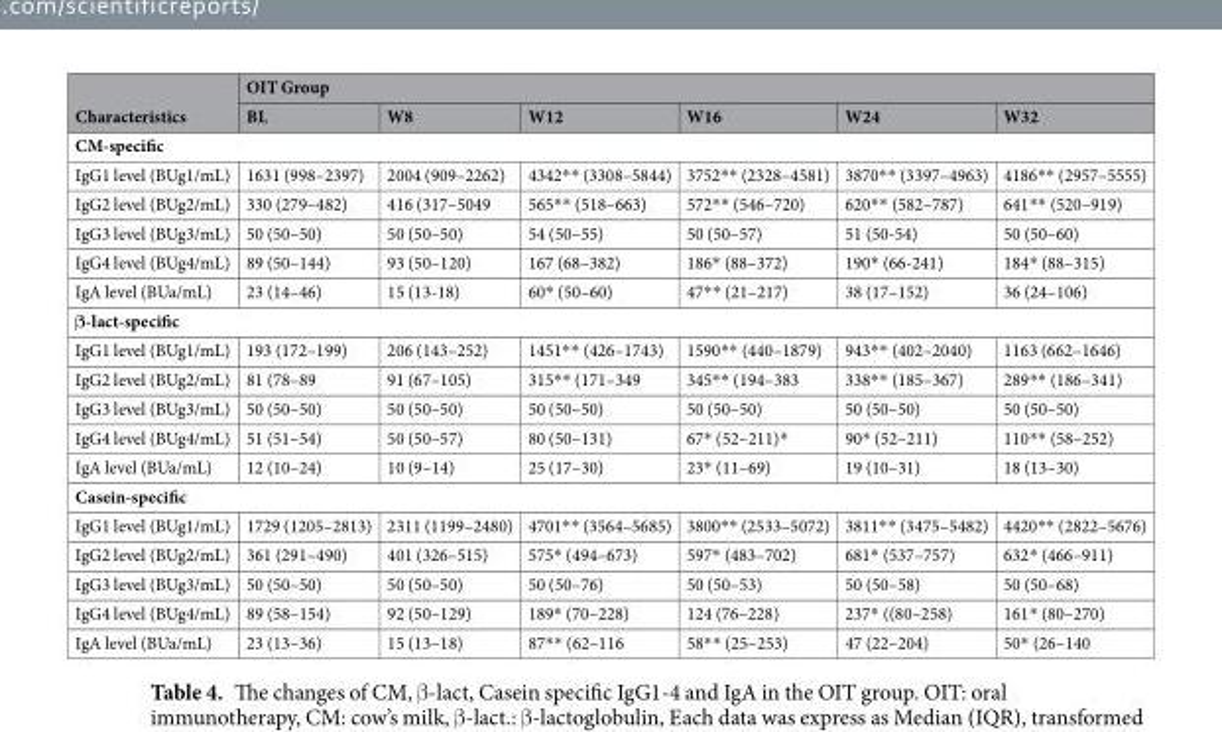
<table><thead><tr><td rowspan="2">Characteristics</td><td colspan="6">OIT Group</td></tr><tr><td>BL</td><td>W8</td><td>W12</td><td>W16</td><td>W24</td><td>W32</td></tr></thead><tbody><tr><td colspan="7">CM-specific</td></tr><tr><td>IgG1 level (BUg1/mL)</td><td>1631 (998–2397)</td><td>2004 (909–2262)</td><td>4342** (3308–5844)</td><td>3752** (2328–4581)</td><td>3870** (3397–4963)</td><td>4186** (2957–5555)</td></tr><tr><td>IgG2 level (BUg2/mL)</td><td>330 (279–482)</td><td>416 (317–5049</td><td>565** (518–663)</td><td>572** (546–720)</td><td>620** (582–787)</td><td>641** (520–919)</td></tr><tr><td>IgG3 level (BUg3/mL)</td><td>50 (50–50)</td><td>50 (50–50)</td><td>54 (50–55)</td><td>50 (50–57)</td><td>51 (50-54)</td><td>50 (50–60)</td></tr><tr><td>IgG4 level (BUg4/mL)</td><td>89 (50–144)</td><td>93 (50–120)</td><td>167 (68–382)</td><td>186* (88–372)</td><td>190* (66-241)</td><td>184* (88–315)</td></tr><tr><td>IgA level (BUa/mL)</td><td>23 (14–46)</td><td>15 (13-18)</td><td>60* (50–60)</td><td>47** (21–217)</td><td>38 (17–152)</td><td>36 (24–106)</td></tr><tr><td colspan="7">β-lact-specific</td></tr><tr><td>IgG1 level (BUg1/mL)</td><td>193 (172–199)</td><td>206 (143–252)</td><td>1451** (426–1743)</td><td>1590** (440–1879)</td><td>943** (402–2040)</td><td>1163 (662–1646)</td></tr><tr><td>IgG2 level (BUg2/mL)</td><td>81 (78–89</td><td>91 (67–105)</td><td>315** (171–349</td><td>345** (194–383</td><td>338** (185–367)</td><td>289** (186–341)</td></tr><tr><td>IgG3 level (BUg3/mL)</td><td>50 (50–50)</td><td>50 (50–50)</td><td>50 (50–50)</td><td>50 (50–50)</td><td>50 (50–50)</td><td>50 (50–50)</td></tr><tr><td>IgG4 level (BUg4/mL)</td><td>51 (51–54)</td><td>50 (50–57)</td><td>80 (50–131)</td><td>67* (52–211)*</td><td>90* (52–211)</td><td>110** (58–252)</td></tr><tr><td>IgA level (BUa/mL)</td><td>12 (10–24)</td><td>10 (9–14)</td><td>25 (17–30)</td><td>23* (11–69)</td><td>19 (10–31)</td><td>18 (13–30)</td></tr><tr><td colspan="7">Casein-specific</td></tr><tr><td>IgG1 level (BUg1/mL)</td><td>1729 (1205–2813)</td><td>2311 (1199–2480)</td><td>4701** (3564–5685)</td><td>3800** (2533–5072)</td><td>3811** (3475–5482)</td><td>4420** (2822–5676)</td></tr><tr><td>IgG2 level (BUg2/mL)</td><td>361 (291–490)</td><td>401 (326–515)</td><td>575* (494–673)</td><td>597* (483–702)</td><td>681* (537–757)</td><td>632* (466–911)</td></tr><tr><td>IgG3 level (BUg3/mL)</td><td>50 (50–50)</td><td>50 (50–50)</td><td>50 (50–76)</td><td>50 (50–53)</td><td>50 (50–58)</td><td>50 (50–68)</td></tr><tr><td>IgG4 level (BUg4/mL)</td><td>89 (58–154)</td><td>92 (50–129)</td><td>189* (70–228)</td><td>124 (76–228)</td><td>237* ((80–258)</td><td>161* (80–270)</td></tr><tr><td>IgA level (BUa/mL)</td><td>23 (13–36)</td><td>15 (13–18)</td><td>87** (62–116</td><td>58** (25–253)</td><td>47 (22–204)</td><td>50* (26–140</td></tr></tbody></table>